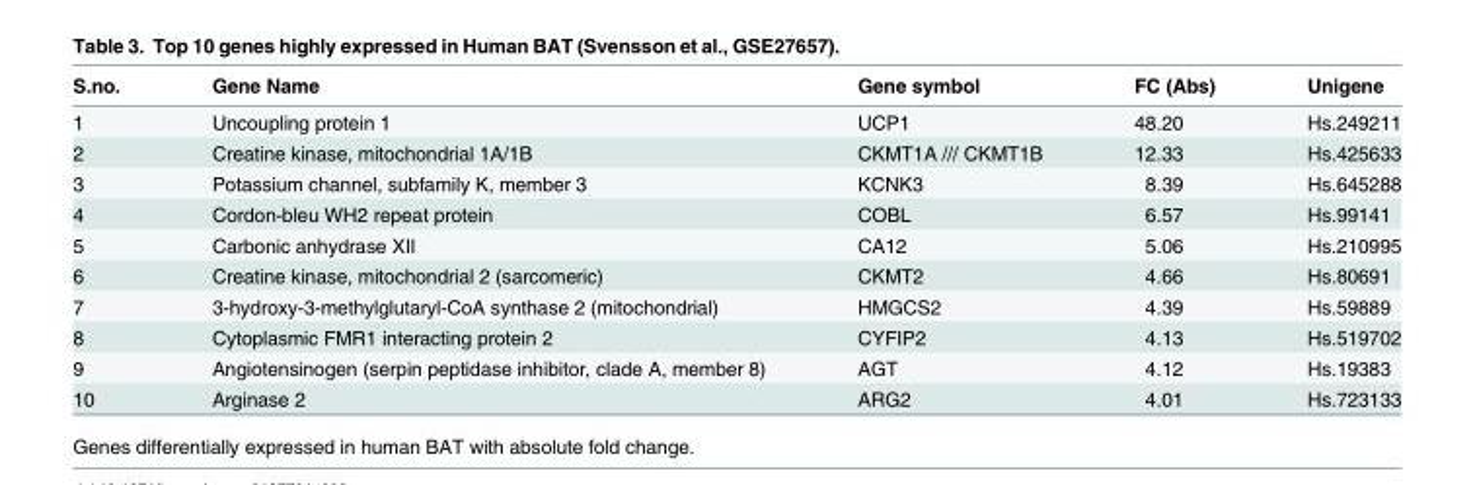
<table><thead><tr><td>S.no.</td><td>Gene Name</td><td>Gene symbol</td><td>FC (Abs)</td><td>Unigene</td></tr></thead><tbody><tr><td>1</td><td>Uncoupling protein 1</td><td>UCP1</td><td>48.20</td><td>Hs.249211</td></tr><tr><td>2</td><td>Creatine kinase, mitochondrial 1A/1B</td><td>CKMT1A /// CKMT1B</td><td>12.33</td><td>Hs.425633</td></tr><tr><td>3</td><td>Potassium channel, subfamily K, member 3</td><td>KCNK3</td><td>8.39</td><td>Hs.645288</td></tr><tr><td>4</td><td>Cordon-bleu WH2 repeat protein</td><td>COBL</td><td>6.57</td><td>Hs.99141</td></tr><tr><td>5</td><td>Carbonic anhydrase XII</td><td>CA12</td><td>5.06</td><td>Hs.210995</td></tr><tr><td>6</td><td>Creatine kinase, mitochondrial 2 (sarcomeric)</td><td>CKMT2</td><td>4.66</td><td>Hs.80691</td></tr><tr><td>7</td><td>3-hydroxy-3-methylglutaryl-CoA synthase 2 (mitochondrial)</td><td>HMGCS2</td><td>4.39</td><td>Hs.59889</td></tr><tr><td>8</td><td>Cytoplasmic FMR1 interacting protein 2</td><td>CYFIP2</td><td>4.13</td><td>Hs.519702</td></tr><tr><td>9</td><td>Angiotensinogen (serpin peptidase inhibitor, clade A, member 8)</td><td>AGT</td><td>4.12</td><td>Hs.19383</td></tr><tr><td>10</td><td>Arginase 2</td><td>ARG2</td><td>4.01</td><td>Hs.723133</td></tr></tbody></table>